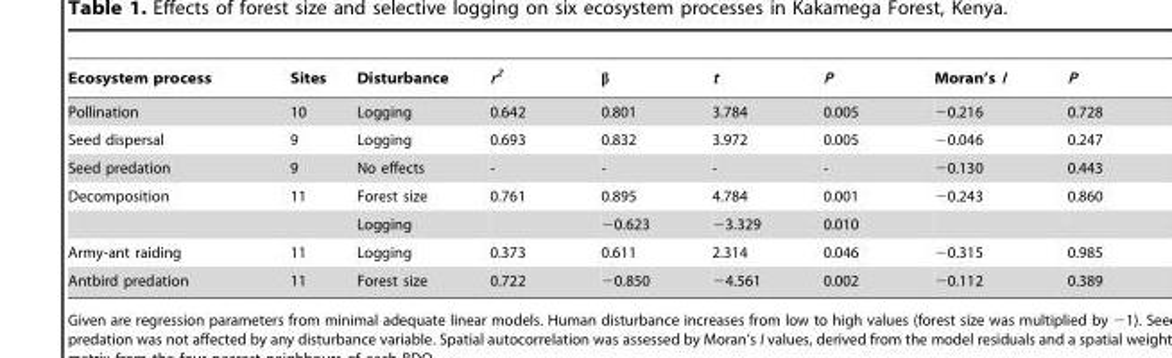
<table><thead><tr><td>Ecosystem process</td><td>Sites</td><td>Disturbance</td><td>r<sup>2</sup></td><td>β</td><td>t</td><td>P</td><td>Moran’s I</td><td>P</td></tr></thead><tbody><tr><td>Pollination</td><td>10</td><td>Logging</td><td>0.642</td><td>0.801</td><td>3.784</td><td>0.005</td><td>−0.216</td><td>0.728</td></tr><tr><td>Seed dispersal</td><td>9</td><td>Logging</td><td>0.693</td><td>0.832</td><td>3.972</td><td>0.005</td><td>−0.046</td><td>0.247</td></tr><tr><td>Seed predation</td><td>9</td><td>No effects</td><td>-</td><td>-</td><td>-</td><td>-</td><td>−0.130</td><td>0.443</td></tr><tr><td rowspan="2">Decomposition</td><td>11</td><td>Forest size</td><td>0.761</td><td>0.895</td><td>4.784</td><td>0.001</td><td>−0.243</td><td>0.860</td></tr><tr><td></td><td>Logging</td><td></td><td>−0.623</td><td>−3.329</td><td>0.010</td><td></td><td></td></tr><tr><td>Army-ant raiding</td><td>11</td><td>Logging</td><td>0.373</td><td>0.611</td><td>2.314</td><td>0.046</td><td>−0.315</td><td>0.985</td></tr><tr><td>Antbird predation</td><td>11</td><td>Forest size</td><td>0.722</td><td>−0.850</td><td>−4.561</td><td>0.002</td><td>−0.112</td><td>0.389</td></tr></tbody></table>